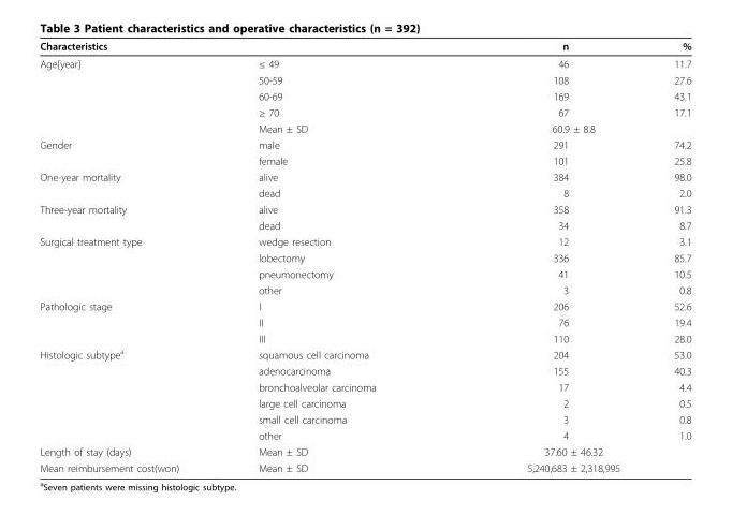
<table><thead><tr><td>Characteristics</td><td></td><td>n</td><td>%</td></tr></thead><tbody><tr><td rowspan="5">Age[year]</td><td>≤ 49</td><td>46</td><td>11.7</td></tr><tr><td>50-59</td><td>108</td><td>27.6</td></tr><tr><td>60-69</td><td>169</td><td>43.1</td></tr><tr><td>≥ 70</td><td>67</td><td>17.1</td></tr><tr><td>Mean ± SD</td><td colspan="2">60.9 ± 8.8</td></tr><tr><td rowspan="2">Gender</td><td>male</td><td>291</td><td>74.2</td></tr><tr><td>female</td><td>101</td><td>25.8</td></tr><tr><td rowspan="2">One-year mortality</td><td>alive</td><td>384</td><td>98.0</td></tr><tr><td>dead</td><td>8</td><td>2.0</td></tr><tr><td rowspan="2">Three-year mortality</td><td>alive</td><td>358</td><td>91.3</td></tr><tr><td>dead</td><td>34</td><td>8.7</td></tr><tr><td rowspan="4">Surgical treatment type</td><td>wedge resection</td><td>12</td><td>3.1</td></tr><tr><td>lobectomy</td><td>336</td><td>85.7</td></tr><tr><td>pneumonectomy</td><td>41</td><td>10.5</td></tr><tr><td>other</td><td>3</td><td>0.8</td></tr><tr><td rowspan="3">Pathologic stage</td><td>I</td><td>206</td><td>52.6</td></tr><tr><td>II</td><td>76</td><td>19.4</td></tr><tr><td>III</td><td>110</td><td>28.0</td></tr><tr><td rowspan="6">Histologic subtype<sup>a</sup></td><td>squamous cell carcinoma</td><td>204</td><td>53.0</td></tr><tr><td>adenocarcinoma</td><td>155</td><td>40.3</td></tr><tr><td>bronchoalveolar carcinoma</td><td>17</td><td>4.4</td></tr><tr><td>large cell carcinoma</td><td>2</td><td>0.5</td></tr><tr><td>small cell carcinoma</td><td>3</td><td>0.8</td></tr><tr><td>other</td><td>4</td><td>1.0</td></tr><tr><td>Length of stay (days)</td><td>Mean ± SD</td><td colspan="2">37.60 ± 46.32</td></tr><tr><td>Mean reimbursement cost(won)</td><td>Mean ± SD</td><td colspan="2">5,240,683 ± 2,318,995</td></tr></tbody></table>